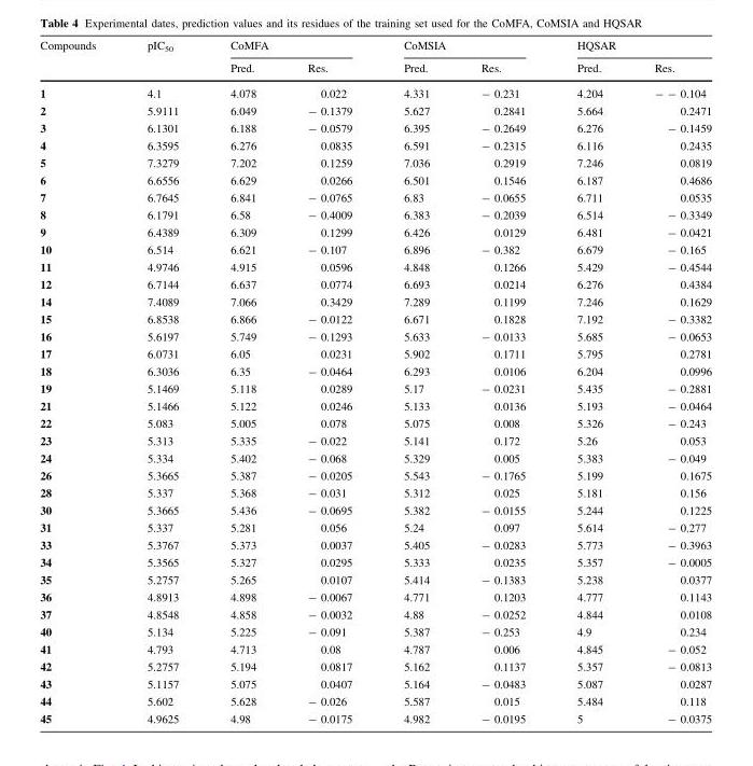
<table><thead><tr><td rowspan="2">Compounds</td><td rowspan="2">pIC<sub>50</sub></td><td colspan="2">CoMFA</td><td colspan="2">CoMSIA</td><td colspan="2">HQSAR</td></tr><tr><td>Pred.</td><td>Res.</td><td>Pred.</td><td>Res.</td><td>Pred.</td><td>Res.</td></tr></thead><tbody><tr><td>1</td><td>4.1</td><td>4.078</td><td>0.022</td><td>4.331</td><td>- 0.231</td><td>4.204</td><td>- - 0.104</td></tr><tr><td>2</td><td>5.9111</td><td>6.049</td><td>- 0.1379</td><td>5.627</td><td>0.2841</td><td>5.664</td><td>0.2471</td></tr><tr><td>3</td><td>6.1301</td><td>6.188</td><td>- 0.0579</td><td>6.395</td><td>- 0.2649</td><td>6.276</td><td>- 0.1459</td></tr><tr><td>4</td><td>6.3595</td><td>6.276</td><td>0.0835</td><td>6.591</td><td>- 0.2315</td><td>6.116</td><td>0.2435</td></tr><tr><td>5</td><td>7.3279</td><td>7.202</td><td>0.1259</td><td>7.036</td><td>0.2919</td><td>7.246</td><td>0.0819</td></tr><tr><td>6</td><td>6.6556</td><td>6.629</td><td>0.0266</td><td>6.501</td><td>0.1546</td><td>6.187</td><td>0.4686</td></tr><tr><td>7</td><td>6.7645</td><td>6.841</td><td>- 0.0765</td><td>6.83</td><td>- 0.0655</td><td>6.711</td><td>0.0535</td></tr><tr><td>8</td><td>6.1791</td><td>6.58</td><td>- 0.4009</td><td>6.383</td><td>- 0.2039</td><td>6.514</td><td>- 0.3349</td></tr><tr><td>9</td><td>6.4389</td><td>6.309</td><td>0.1299</td><td>6.426</td><td>0.0129</td><td>6.481</td><td>- 0.0421</td></tr><tr><td>10</td><td>6.514</td><td>6.621</td><td>- 0.107</td><td>6.896</td><td>- 0.382</td><td>6.679</td><td>- 0.165</td></tr><tr><td>11</td><td>4.9746</td><td>4.915</td><td>0.0596</td><td>4.848</td><td>0.1266</td><td>5.429</td><td>- 0.4544</td></tr><tr><td>12</td><td>6.7144</td><td>6.637</td><td>0.0774</td><td>6.693</td><td>0.0214</td><td>6.276</td><td>0.4384</td></tr><tr><td>14</td><td>7.4089</td><td>7.066</td><td>0.3429</td><td>7.289</td><td>0.1199</td><td>7.246</td><td>0.1629</td></tr><tr><td>15</td><td>6.8538</td><td>6.866</td><td>- 0.0122</td><td>6.671</td><td>0.1828</td><td>7.192</td><td>- 0.3382</td></tr><tr><td>16</td><td>5.6197</td><td>5.749</td><td>- 0.1293</td><td>5.633</td><td>- 0.0133</td><td>5.685</td><td>- 0.0653</td></tr><tr><td>17</td><td>6.0731</td><td>6.05</td><td>0.0231</td><td>5.902</td><td>0.1711</td><td>5.795</td><td>0.2781</td></tr><tr><td>18</td><td>6.3036</td><td>6.35</td><td>- 0.0464</td><td>6.293</td><td>0.0106</td><td>6.204</td><td>0.0996</td></tr><tr><td>19</td><td>5.1469</td><td>5.118</td><td>0.0289</td><td>5.17</td><td>- 0.0231</td><td>5.435</td><td>- 0.2881</td></tr><tr><td>21</td><td>5.1466</td><td>5.122</td><td>0.0246</td><td>5.133</td><td>0.0136</td><td>5.193</td><td>- 0.0464</td></tr><tr><td>22</td><td>5.083</td><td>5.005</td><td>0.078</td><td>5.075</td><td>0.008</td><td>5.326</td><td>- 0.243</td></tr><tr><td>23</td><td>5.313</td><td>5.335</td><td>- 0.022</td><td>5.141</td><td>0.172</td><td>5.26</td><td>0.053</td></tr><tr><td>24</td><td>5.334</td><td>5.402</td><td>- 0.068</td><td>5.329</td><td>0.005</td><td>5.383</td><td>- 0.049</td></tr><tr><td>26</td><td>5.3665</td><td>5.387</td><td>- 0.0205</td><td>5.543</td><td>- 0.1765</td><td>5.199</td><td>0.1675</td></tr><tr><td>28</td><td>5.337</td><td>5.368</td><td>- 0.031</td><td>5.312</td><td>0.025</td><td>5.181</td><td>0.156</td></tr><tr><td>30</td><td>5.3665</td><td>5.436</td><td>- 0.0695</td><td>5.382</td><td>- 0.0155</td><td>5.244</td><td>0.1225</td></tr><tr><td>31</td><td>5.337</td><td>5.281</td><td>0.056</td><td>5.24</td><td>0.097</td><td>5.614</td><td>- 0.277</td></tr><tr><td>33</td><td>5.3767</td><td>5.373</td><td>0.0037</td><td>5.405</td><td>- 0.0283</td><td>5.773</td><td>- 0.3963</td></tr><tr><td>34</td><td>5.3565</td><td>5.327</td><td>0.0295</td><td>5.333</td><td>0.0235</td><td>5.357</td><td>- 0.0005</td></tr><tr><td>35</td><td>5.2757</td><td>5.265</td><td>0.0107</td><td>5.414</td><td>- 0.1383</td><td>5.238</td><td>0.0377</td></tr><tr><td>36</td><td>4.8913</td><td>4.898</td><td>- 0.0067</td><td>4.771</td><td>0.1203</td><td>4.777</td><td>0.1143</td></tr><tr><td>37</td><td>4.8548</td><td>4.858</td><td>- 0.0032</td><td>4.88</td><td>- 0.0252</td><td>4.844</td><td>0.0108</td></tr><tr><td>40</td><td>5.134</td><td>5.225</td><td>- 0.091</td><td>5.387</td><td>- 0.253</td><td>4.9</td><td>0.234</td></tr><tr><td>41</td><td>4.793</td><td>4.713</td><td>0.08</td><td>4.787</td><td>0.006</td><td>4.845</td><td>- 0.052</td></tr><tr><td>42</td><td>5.2757</td><td>5.194</td><td>0.0817</td><td>5.162</td><td>0.1137</td><td>5.357</td><td>- 0.0813</td></tr><tr><td>43</td><td>5.1157</td><td>5.075</td><td>0.0407</td><td>5.164</td><td>- 0.0483</td><td>5.087</td><td>0.0287</td></tr><tr><td>44</td><td>5.602</td><td>5.628</td><td>- 0.026</td><td>5.587</td><td>0.015</td><td>5.484</td><td>0.118</td></tr><tr><td>45</td><td>4.9625</td><td>4.98</td><td>- 0.0175</td><td>4.982</td><td>- 0.0195</td><td>5</td><td>- 0.0375</td></tr></tbody></table>